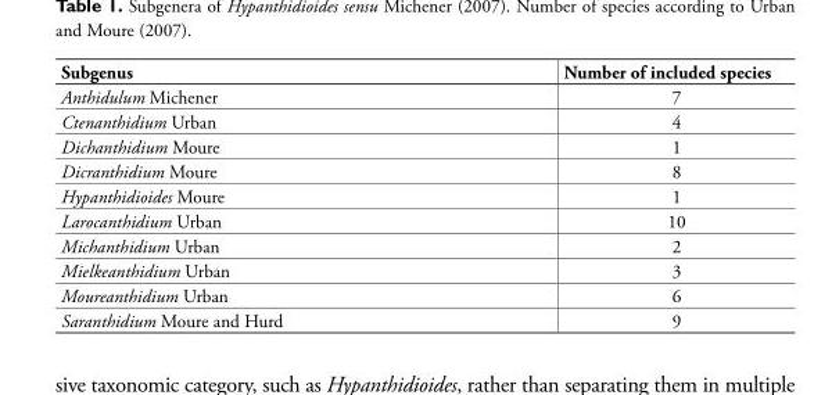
<table><thead><tr><td>Subgenus</td><td>Number of included species</td></tr></thead><tbody><tr><td>Anthidulum Michener</td><td>7</td></tr><tr><td>Ctenanthidium Urban</td><td>4</td></tr><tr><td>Dichanthidium Moure</td><td>1</td></tr><tr><td>Dicranthidium Moure</td><td>8</td></tr><tr><td>Hypanthidioides Moure</td><td>1</td></tr><tr><td>Larocanthidium Urban</td><td>10</td></tr><tr><td>Michanthidium Urban</td><td>2</td></tr><tr><td>Mielkeanthidium Urban</td><td>3</td></tr><tr><td>Moureanthidium Urban</td><td>6</td></tr><tr><td>Saranthidium Moure and Hurd</td><td>9</td></tr></tbody></table>